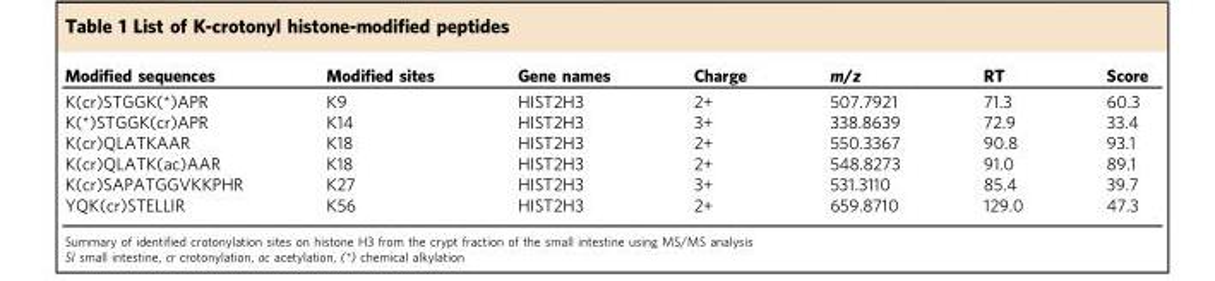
<table><thead><tr><td>Modified sequences</td><td>Modified sites</td><td>Gene names</td><td>Charge</td><td>m/z</td><td>RT</td><td>Score</td></tr></thead><tbody><tr><td>K(cr)STGGK(*)APR</td><td>K9</td><td>HIST2H3</td><td>2+</td><td>507.7921</td><td>71.3</td><td>60.3</td></tr><tr><td>K(*)STGGK(cr)APR</td><td>K14</td><td>HIST2H3</td><td>3+</td><td>338.8639</td><td>72.9</td><td>33.4</td></tr><tr><td>K(cr)QLATKAAR</td><td>K18</td><td>HIST2H3</td><td>2+</td><td>550.3367</td><td>90.8</td><td>93.1</td></tr><tr><td>K(cr)QLATK(ac)AAR</td><td>K18</td><td>HIST2H3</td><td>2+</td><td>548.8273</td><td>91.0</td><td>89.1</td></tr><tr><td>K(cr)SAPATGGVKKPHR</td><td>K27</td><td>HIST2H3</td><td>3+</td><td>531.3110</td><td>85.4</td><td>39.7</td></tr><tr><td>YQK(cr)STELLIR</td><td>K56</td><td>HIST2H3</td><td>2+</td><td>659.8710</td><td>129.0</td><td>47.3</td></tr></tbody></table>